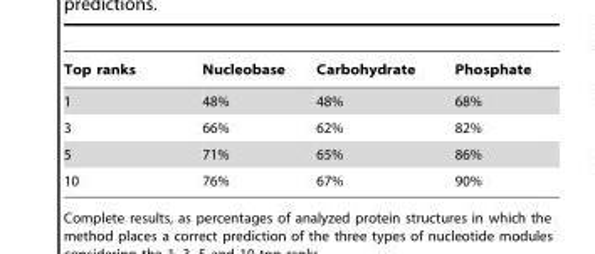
<table><thead><tr><td>Top ranks</td><td>Nucleobase</td><td>Carbohydrate</td><td>Phosphate</td></tr></thead><tbody><tr><td>1</td><td>48%</td><td>48%</td><td>68%</td></tr><tr><td>3</td><td>66%</td><td>62%</td><td>82%</td></tr><tr><td>5</td><td>71%</td><td>65%</td><td>86%</td></tr><tr><td>10</td><td>76%</td><td>67%</td><td>90%</td></tr></tbody></table>